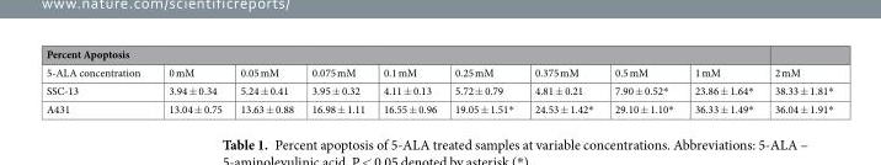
<table><thead><tr><td colspan="9">Percent Apoptosis</td><td rowspan="2">2 mM</td></tr><tr><td>5-ALA concentration</td><td>0 mM</td><td>0.05 mM</td><td>0.075 mM</td><td>0.1 mM</td><td>0.25 mM</td><td>0.375 mM</td><td>0.5 mM</td><td>1 mM</td></tr></thead><tbody><tr><td>SSC-13</td><td>3.94 ± 0.34</td><td>5.24 ± 0.41</td><td>3.95 ± 0.32</td><td>4.11 ± 0.13</td><td>5.72 ± 0.79</td><td>4.81 ± 0.21</td><td>7.90 ± 0.52*</td><td>23.86 ± 1.64*</td><td>38.33 ± 1.81*</td></tr><tr><td>A431</td><td>13.04 ± 0.75</td><td>13.63 ± 0.88</td><td>16.98 ± 1.11</td><td>16.55 ± 0.96</td><td>19.05 ± 1.51*</td><td>24.53 ± 1.42*</td><td>29.10 ± 1.10*</td><td>36.33 ± 1.49*</td><td>36.04 ± 1.91*</td></tr></tbody></table>